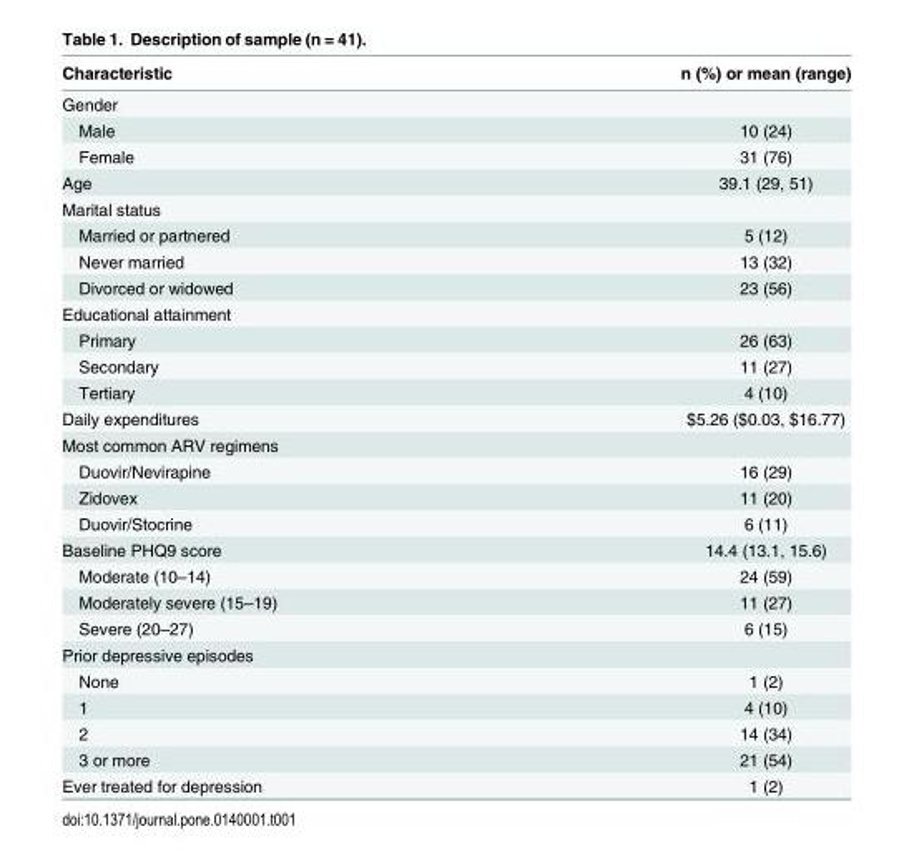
<table><thead><tr><td>Characteristic</td><td>n (%) or mean (range)</td></tr></thead><tbody><tr><td colspan="2">Gender</td></tr><tr><td>Male</td><td>10 (24)</td></tr><tr><td>Female</td><td>31 (76)</td></tr><tr><td>Age</td><td>39.1 (29, 51)</td></tr><tr><td colspan="2">Marital status</td></tr><tr><td>Married or partnered</td><td>5 (12)</td></tr><tr><td>Never married</td><td>13 (32)</td></tr><tr><td>Divorced or widowed</td><td>23 (56)</td></tr><tr><td colspan="2">Educational attainment</td></tr><tr><td>Primary</td><td>26 (63)</td></tr><tr><td>Secondary</td><td>11 (27)</td></tr><tr><td>Tertiary</td><td>4 (10)</td></tr><tr><td>Daily expenditures</td><td>$5.26 ($0.03, $16.77)</td></tr><tr><td colspan="2">Most common ARV regimens</td></tr><tr><td>Duovir/Nevirapine</td><td>16 (29)</td></tr><tr><td>Zidovex</td><td>11 (20)</td></tr><tr><td>Duovir/Stocrine</td><td>6 (11)</td></tr><tr><td>Baseline PHQ9 score</td><td>14.4 (13.1, 15.6)</td></tr><tr><td>Moderate (10–14)</td><td>24 (59)</td></tr><tr><td>Moderately severe (15–19)</td><td>11 (27)</td></tr><tr><td>Severe (20–27)</td><td>6 (15)</td></tr><tr><td colspan="2">Prior depressive episodes</td></tr><tr><td>None</td><td>1 (2)</td></tr><tr><td>1</td><td>4 (10)</td></tr><tr><td>2</td><td>14 (34)</td></tr><tr><td>3 or more</td><td>21 (54)</td></tr><tr><td>Ever treated for depression</td><td>1 (2)</td></tr></tbody></table>